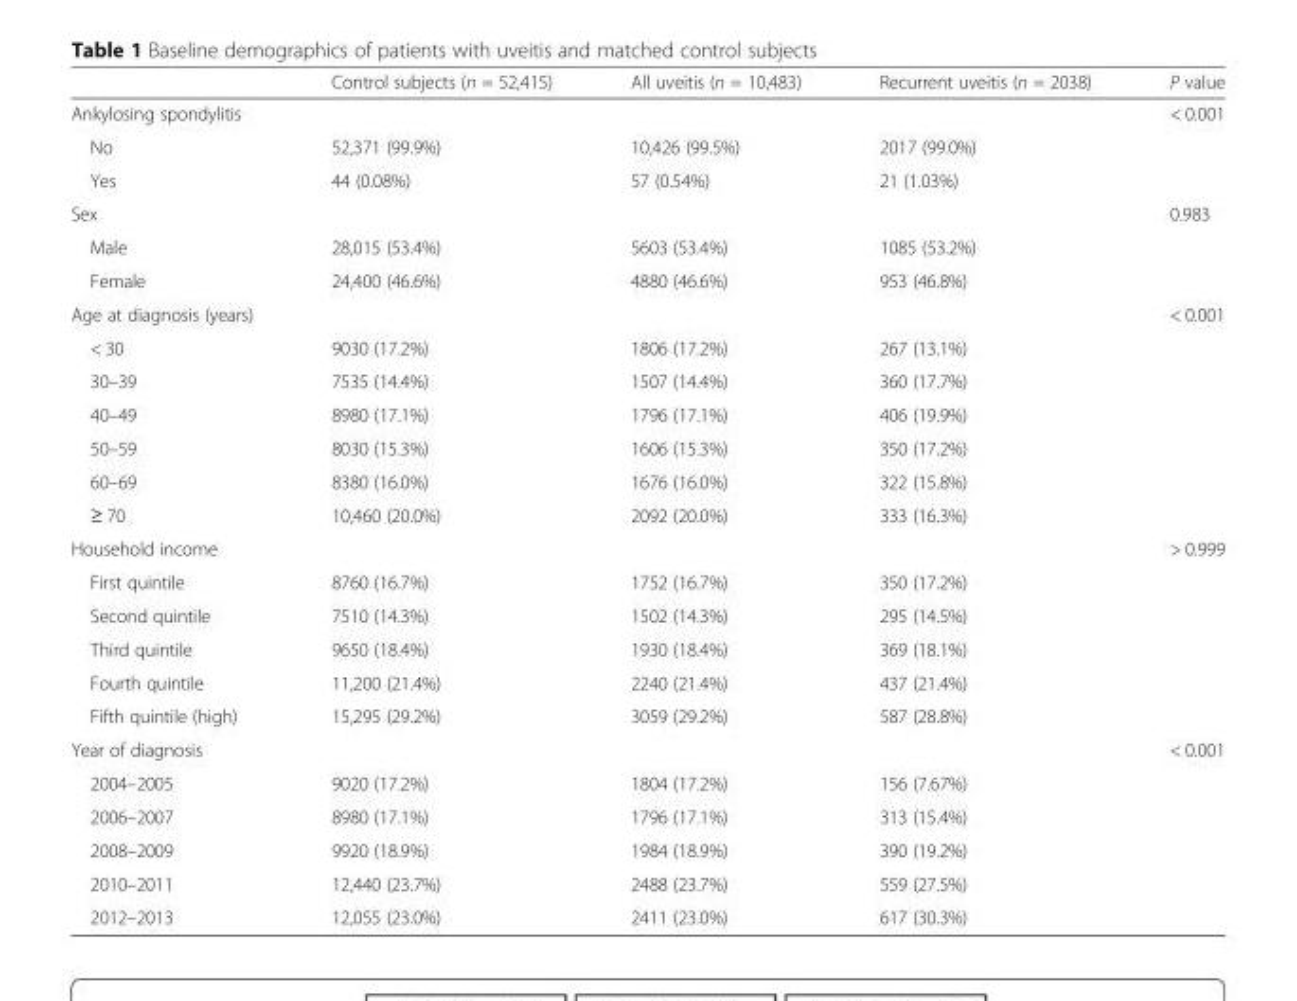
<table><thead><tr><td></td><td>Control subjects (n = 52,415)</td><td>All uveitis (n = 10,483)</td><td>Recurrent uveitis (n = 2038)</td><td>P value</td></tr></thead><tbody><tr><td>Ankylosing spondylitis</td><td></td><td></td><td></td><td>&lt; 0.001</td></tr><tr><td>No</td><td>52,371 (99.9%)</td><td>10,426 (99.5%)</td><td>2017 (99.0%)</td><td></td></tr><tr><td>Yes</td><td>44 (0.08%)</td><td>57 (0.54%)</td><td>21 (1.03%)</td><td></td></tr><tr><td>Sex</td><td></td><td></td><td></td><td>0.983</td></tr><tr><td>Male</td><td>28,015 (53.4%)</td><td>5603 (53.4%)</td><td>1085 (53.2%)</td><td></td></tr><tr><td>Female</td><td>24,400 (46.6%)</td><td>4880 (46.6%)</td><td>953 (46.8%)</td><td></td></tr><tr><td>Age at diagnosis (years)</td><td></td><td></td><td></td><td>&lt; 0.001</td></tr><tr><td>&lt; 30</td><td>9030 (17.2%)</td><td>1806 (17.2%)</td><td>267 (13.1%)</td><td></td></tr><tr><td>30–39</td><td>7535 (14.4%)</td><td>1507 (14.4%)</td><td>360 (17.7%)</td><td></td></tr><tr><td>40–49</td><td>8980 (17.1%)</td><td>1796 (17.1%)</td><td>406 (19.9%)</td><td></td></tr><tr><td>50–59</td><td>8030 (15.3%)</td><td>1606 (15.3%)</td><td>350 (17.2%)</td><td></td></tr><tr><td>60–69</td><td>8380 (16.0%)</td><td>1676 (16.0%)</td><td>322 (15.8%)</td><td></td></tr><tr><td>≥ 70</td><td>10,460 (20.0%)</td><td>2092 (20.0%)</td><td>333 (16.3%)</td><td></td></tr><tr><td>Household income</td><td></td><td></td><td></td><td>&gt; 0.999</td></tr><tr><td>First quintile</td><td>8760 (16.7%)</td><td>1752 (16.7%)</td><td>350 (17.2%)</td><td></td></tr><tr><td>Second quintile</td><td>7510 (14.3%)</td><td>1502 (14.3%)</td><td>295 (14.5%)</td><td></td></tr><tr><td>Third quintile</td><td>9650 (18.4%)</td><td>1930 (18.4%)</td><td>369 (18.1%)</td><td></td></tr><tr><td>Fourth quintile</td><td>11,200 (21.4%)</td><td>2240 (21.4%)</td><td>437 (21.4%)</td><td></td></tr><tr><td>Fifth quintile (high)</td><td>15,295 (29.2%)</td><td>3059 (29.2%)</td><td>587 (28.8%)</td><td></td></tr><tr><td>Year of diagnosis</td><td></td><td></td><td></td><td>&lt; 0.001</td></tr><tr><td>2004–2005</td><td>9020 (17.2%)</td><td>1804 (17.2%)</td><td>156 (7.67%)</td><td></td></tr><tr><td>2006–2007</td><td>8980 (17.1%)</td><td>1796 (17.1%)</td><td>313 (15.4%)</td><td></td></tr><tr><td>2008–2009</td><td>9920 (18.9%)</td><td>1984 (18.9%)</td><td>390 (19.2%)</td><td></td></tr><tr><td>2010–2011</td><td>12,440 (23.7%)</td><td>2488 (23.7%)</td><td>559 (27.5%)</td><td></td></tr><tr><td>2012–2013</td><td>12,055 (23.0%)</td><td>2411 (23.0%)</td><td>617 (30.3%)</td><td></td></tr></tbody></table>